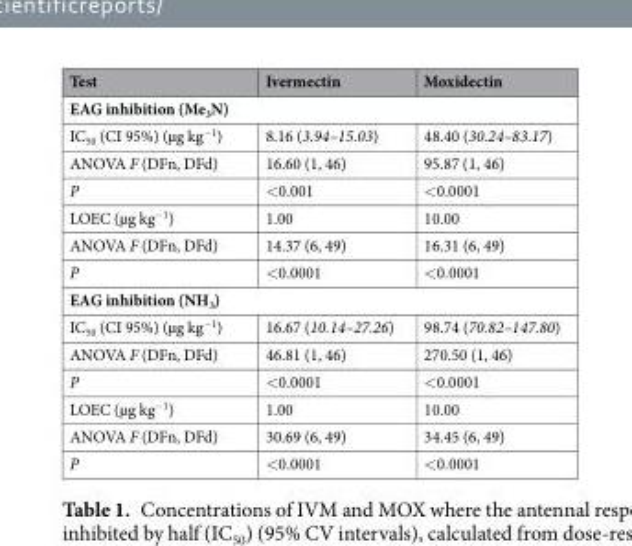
<table><thead><tr><td>Test</td><td>Ivermectin</td><td>Moxidectin</td></tr></thead><tbody><tr><td colspan="3">EAG inhibition (Me<sub>3</sub>N)</td></tr><tr><td>IC<sub>50</sub> (CI 95%) (µg kg<sup>−1</sup>)</td><td>8.16 (3.94–15.03)</td><td>48.40 (30.24–83.17)</td></tr><tr><td>ANOVA F (DFn, DFd)</td><td>16.60 (1, 46)</td><td>95.87 (1, 46)</td></tr><tr><td>P</td><td>&lt;0.001</td><td>&lt;0.0001</td></tr><tr><td>LOEC (µg kg<sup>−1</sup>)</td><td>1.00</td><td>10.00</td></tr><tr><td>ANOVA F (DFn, DFd)</td><td>14.37 (6, 49)</td><td>16.31 (6, 49)</td></tr><tr><td>P</td><td>&lt;0.0001</td><td>&lt;0.0001</td></tr><tr><td colspan="3">EAG inhibition (NH<sub>3</sub>)</td></tr><tr><td>IC<sub>50</sub> (CI 95%) (µg kg<sup>−1</sup>)</td><td>16.67 (10.14–27.26)</td><td>98.74 (70.82–147.80)</td></tr><tr><td>ANOVA F (DFn, DFd)</td><td>46.81 (1, 46)</td><td>270.50 (1, 46)</td></tr><tr><td>P</td><td>&lt;0.0001</td><td>&lt;0.0001</td></tr><tr><td>LOEC (µg kg<sup>−1</sup>)</td><td>1.00</td><td>10.00</td></tr><tr><td>ANOVA F (DFn, DFd)</td><td>30.69 (6, 49)</td><td>34.45 (6, 49)</td></tr><tr><td>P</td><td>&lt;0.0001</td><td>&lt;0.0001</td></tr></tbody></table>